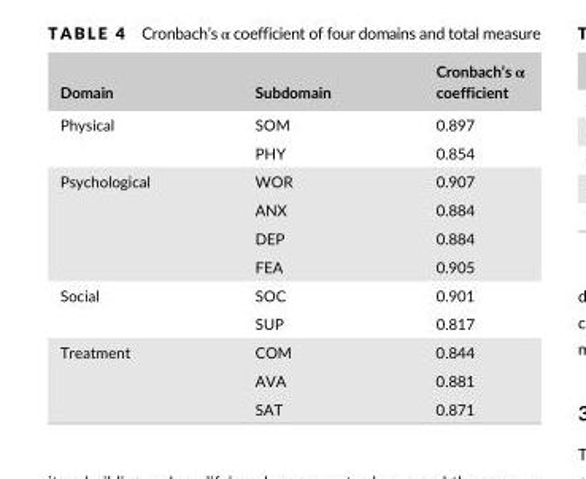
<table><thead><tr><td>Domain</td><td>Subdomain</td><td>Cronbach’s α coefficient</td></tr></thead><tbody><tr><td rowspan="2">Physical</td><td>SOM</td><td>0.897</td></tr><tr><td>PHY</td><td>0.854</td></tr><tr><td rowspan="4">Psychological</td><td>WOR</td><td>0.907</td></tr><tr><td>ANX</td><td>0.884</td></tr><tr><td>DEP</td><td>0.884</td></tr><tr><td>FEA</td><td>0.905</td></tr><tr><td rowspan="2">Social</td><td>SOC</td><td>0.901</td></tr><tr><td>SUP</td><td>0.817</td></tr><tr><td rowspan="3">Treatment</td><td>COM</td><td>0.844</td></tr><tr><td>AVA</td><td>0.881</td></tr><tr><td>SAT</td><td>0.871</td></tr></tbody></table>